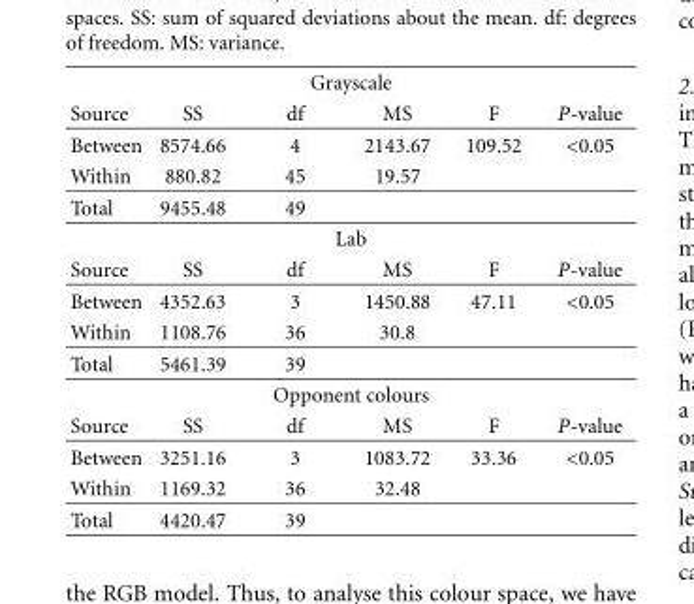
<table><thead><tr><td colspan="6">Grayscale</td></tr><tr><td>Source</td><td>SS</td><td>df</td><td>MS</td><td>F</td><td>P-value</td></tr></thead><tbody><tr><td>Between</td><td>8574.66</td><td>4</td><td>2143.67</td><td>109.52</td><td>&lt;0.05</td></tr><tr><td>Within</td><td>880.82</td><td>45</td><td>19.57</td><td></td><td></td></tr><tr><td>Total</td><td>9455.48</td><td>49</td><td></td><td></td><td></td></tr><tr><td colspan="6">Lab</td></tr><tr><td>Source</td><td>SS</td><td>df</td><td>MS</td><td>F</td><td>P-value</td></tr><tr><td>Between</td><td>4352.63</td><td>3</td><td>1450.88</td><td>47.11</td><td>&lt;0.05</td></tr><tr><td>Within</td><td>1108.76</td><td>36</td><td>30.8</td><td></td><td></td></tr><tr><td>Total</td><td>5461.39</td><td>39</td><td></td><td></td><td></td></tr><tr><td colspan="6">Opponent colours</td></tr><tr><td>Source</td><td>SS</td><td>df</td><td>MS</td><td>F</td><td>P-value</td></tr><tr><td>Between</td><td>3251.16</td><td>3</td><td>1083.72</td><td>33.36</td><td>&lt;0.05</td></tr><tr><td>Within</td><td>1169.32</td><td>36</td><td>32.48</td><td></td><td></td></tr><tr><td>Total</td><td>4420.47</td><td>39</td><td></td><td></td><td></td></tr></tbody></table>